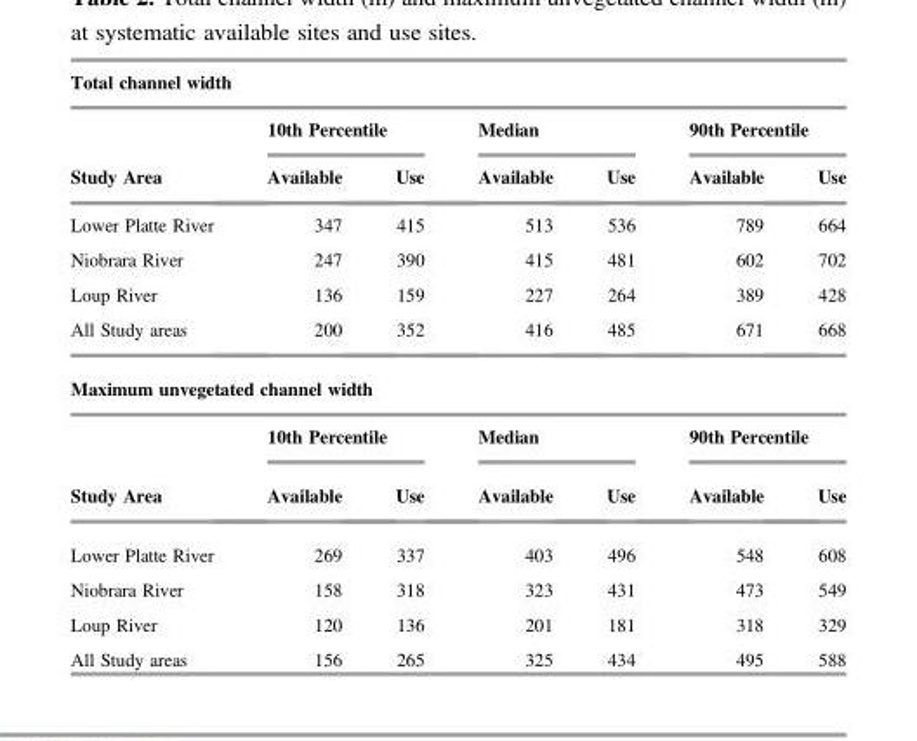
<table><thead><tr><td colspan="7">Total channel width</td></tr><tr><td rowspan="2">Study Area</td><td colspan="2">10th Percentile</td><td colspan="2">Median</td><td colspan="2">90th Percentile</td></tr><tr><td>Available</td><td>Use</td><td>Available</td><td>Use</td><td>Available</td><td>Use</td></tr></thead><tbody><tr><td>Lower Platte River</td><td>347</td><td>415</td><td>513</td><td>536</td><td>789</td><td>664</td></tr><tr><td>Niobrara River</td><td>247</td><td>390</td><td>415</td><td>481</td><td>602</td><td>702</td></tr><tr><td>Loup River</td><td>136</td><td>159</td><td>227</td><td>264</td><td>389</td><td>428</td></tr><tr><td>All Study areas</td><td>200</td><td>352</td><td>416</td><td>485</td><td>671</td><td>668</td></tr><tr><td colspan="7">Maximum unvegetated channel width</td></tr><tr><td></td><td colspan="2">10th Percentile</td><td colspan="2">Median</td><td colspan="2">90th Percentile</td></tr><tr><td>Study Area</td><td>Available</td><td>Use</td><td>Available</td><td>Use</td><td>Available</td><td>Use</td></tr><tr><td>Lower Platte River</td><td>269</td><td>337</td><td>403</td><td>496</td><td>548</td><td>608</td></tr><tr><td>Niobrara River</td><td>158</td><td>318</td><td>323</td><td>431</td><td>473</td><td>549</td></tr><tr><td>Loup River</td><td>120</td><td>136</td><td>201</td><td>181</td><td>318</td><td>329</td></tr><tr><td>All Study areas</td><td>156</td><td>265</td><td>325</td><td>434</td><td>495</td><td>588</td></tr></tbody></table>